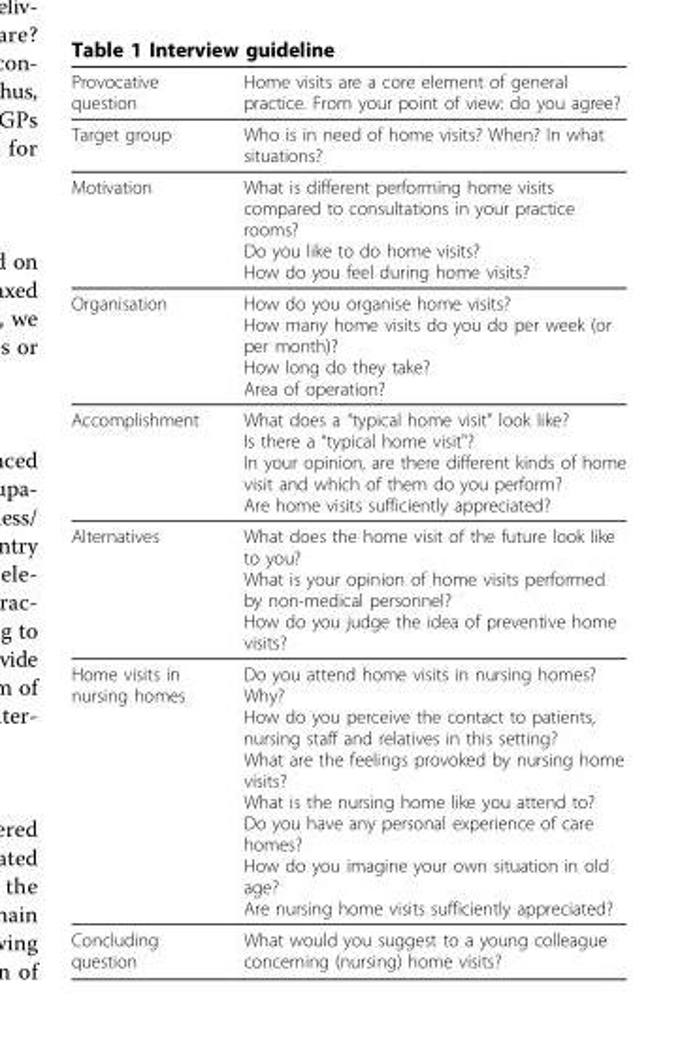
<table><thead><tr><td>Provocative question</td><td>Home visits are a core element of general practice. From your point of view: do you agree?</td></tr></thead><tbody><tr><td>Target group</td><td>Who is in need of home visits? When? In what situations?</td></tr><tr><td>Motivation</td><td>What is different performing home visits compared to consultations in your practice rooms? Do you like to do home visits? How do you feel during home visits?</td></tr><tr><td>Organisation</td><td>How do you organise home visits? How many home visits do you do per week (or per month)? How long do they take? Area of operation?</td></tr><tr><td>Accomplishment</td><td>What does a “typical home visit” look like? Is there a “typical home visit&quot;? In your opinion, are there different kinds of home visit and which of them do you perform? Are home visits sufficiently appreciated?</td></tr><tr><td>Alternatives</td><td>What does the home visit of the future look like to you? What is your opinion of home visits performed by non-medical personnel? How do you judge the idea of preventive home visits?</td></tr><tr><td>Home visits in nursing homes</td><td>Do you attend home visits in nursing homes? Why? How do you perceive the contact to patients, nursing staff and relatives in this setting? What are the feelings provoked by nursing home visits? What is the nursing home like you attend to? Do you have any personal experience of care homes? How do you imagine your own situation in old age? Are nursing home visits sufficiently appreciated?</td></tr><tr><td>Concluding question</td><td>What would you suggest to a young colleague concerning (nursing) home visits?</td></tr></tbody></table>